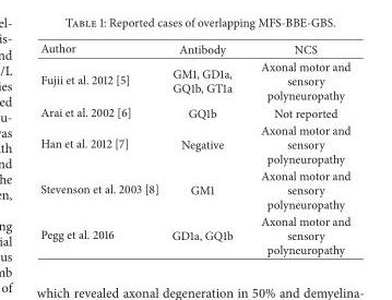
<table><thead><tr><td>Author</td><td>Antibody</td><td>NCS</td></tr></thead><tbody><tr><td>Fujii et al. 2012 [5]</td><td>GM1, GD1a, GQ1b, GT1a</td><td>Axonal motor and sensory polyneuropathy</td></tr><tr><td>Arai et al. 2002 [6]</td><td>GQ1b</td><td>Not reported</td></tr><tr><td>Han et al. 2012 [7]</td><td>Negative</td><td>Axonal motor and sensory polyneuropathy</td></tr><tr><td>Stevenson et al. 2003 [8]</td><td>GM1</td><td>Axonal motor and sensory polyneuropathy</td></tr><tr><td>Pegg et al. 2016</td><td>GD1a, GQ1b</td><td>Axonal motor and sensory polyneuropathy</td></tr></tbody></table>